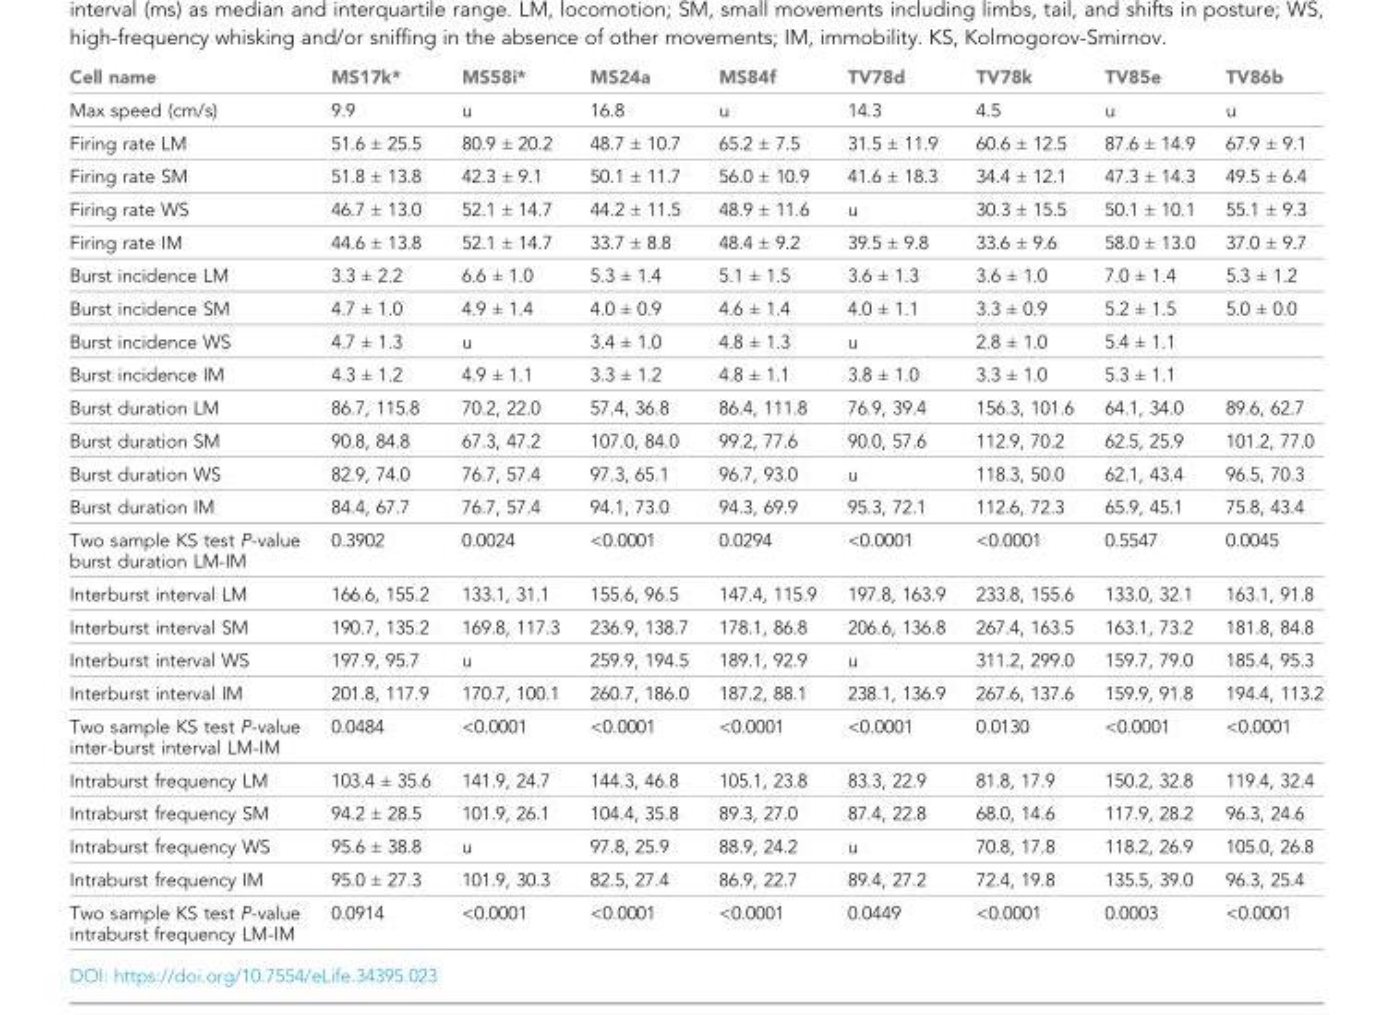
<table><thead><tr><td>Cell name</td><td>MS17k*</td><td>MS58i*</td><td>MS24a</td><td>MS84f</td><td>TV78d</td><td>TV78k</td><td>TV85e</td><td>TV86b</td></tr></thead><tbody><tr><td>Max speed (cm/s)</td><td>9.9</td><td>u</td><td>16.8</td><td>u</td><td>14.3</td><td>4.5</td><td>u</td><td>u</td></tr><tr><td>Firing rate LM</td><td>51.6 ± 25.5</td><td>80.9 ± 20.2</td><td>48.7 ± 10.7</td><td>65.2 ± 7.5</td><td>31.5 ± 11.9</td><td>60.6 ± 12.5</td><td>87.6 ± 14.9</td><td>67.9 ± 9.1</td></tr><tr><td>Firing rate SM</td><td>51.8 ± 13.8</td><td>42.3 ± 9.1</td><td>50.1 ± 11.7</td><td>56.0 ± 10.9</td><td>41.6 ± 18.3</td><td>34.4 ± 12.1</td><td>47.3 ± 14.3</td><td>49.5 ± 6.4</td></tr><tr><td>Firing rate WS</td><td>46.7 ± 13.0</td><td>52.1 ± 14.7</td><td>44.2 ± 11.5</td><td>48.9 ± 11.6</td><td>u</td><td>30.3 ± 15.5</td><td>50.1 ± 10.1</td><td>55.1 ± 9.3</td></tr><tr><td>Firing rate IM</td><td>44.6 ± 13.8</td><td>52.1 ± 14.7</td><td>33.7 ± 8.8</td><td>48.4 ± 9.2</td><td>39.5 ± 9.8</td><td>33.6 ± 9.6</td><td>58.0 ± 13.0</td><td>37.0 ± 9.7</td></tr><tr><td>Burst incidence LM</td><td>3.3 ± 2.2</td><td>6.6 ± 1.0</td><td>5.3 ± 1.4</td><td>5.1 ± 1.5</td><td>3.6 ± 1.3</td><td>3.6 ± 1.0</td><td>7.0 ± 1.4</td><td>5.3 ± 1.2</td></tr><tr><td>Burst incidence SM</td><td>4.7 ± 1.0</td><td>4.9 ± 1.4</td><td>4.0 ± 0.9</td><td>4.6 ± 1.4</td><td>4.0 ± 1.1</td><td>3.3 ± 0.9</td><td>5.2 ± 1.5</td><td>5.0 ± 0.0</td></tr><tr><td>Burst incidence WS</td><td>4.7 ± 1.3</td><td>u</td><td>3.4 ± 1.0</td><td>4.8 ± 1.3</td><td>u</td><td>2.8 ± 1.0</td><td>5.4 ± 1.1</td><td></td></tr><tr><td>Burst incidence IM</td><td>4.3 ± 1.2</td><td>4.9 ± 1.1</td><td>3.3 ± 1.2</td><td>4.8 ± 1.1</td><td>3.8 ± 1.0</td><td>3.3 ± 1.0</td><td>5.3 ± 1.1</td><td></td></tr><tr><td>Burst duration LM</td><td>86.7, 115.8</td><td>70.2, 22.0</td><td>57.4, 36.8</td><td>86.4, 111.8</td><td>76.9, 39.4</td><td>156.3, 101.6</td><td>64.1, 34.0</td><td>89.6, 62.7</td></tr><tr><td>Burst duration SM</td><td>90.8, 84.8</td><td>67.3, 47.2</td><td>107.0, 84.0</td><td>99.2, 77.6</td><td>90.0, 57.6</td><td>112.9, 70.2</td><td>62.5, 25.9</td><td>101.2, 77.0</td></tr><tr><td>Burst duration WS</td><td>82.9, 74.0</td><td>76.7, 57.4</td><td>97.3, 65.1</td><td>96.7, 93.0</td><td>u</td><td>118.3, 50.0</td><td>62.1, 43.4</td><td>96.5, 70.3</td></tr><tr><td>Burst duration IM</td><td>84.4, 67.7</td><td>76.7, 57.4</td><td>94.1, 73.0</td><td>94.3, 69.9</td><td>95.3, 72.1</td><td>112.6, 72.3</td><td>65.9, 45.1</td><td>75.8, 43.4</td></tr><tr><td>Two sample KS test P-value burst duration LM-IM</td><td>0.3902</td><td>0.0024</td><td>&lt;0.0001</td><td>0.0294</td><td>&lt;0.0001</td><td>&lt;0.0001</td><td>0.5547</td><td>0.0045</td></tr><tr><td>Interburst interval LM</td><td>166.6, 155.2</td><td>133.1, 31.1</td><td>155.6, 96.5</td><td>147.4, 115.9</td><td>197.8, 163.9</td><td>233.8, 155.6</td><td>133.0, 32.1</td><td>163.1, 91.8</td></tr><tr><td>Interburst interval SM</td><td>190.7, 135.2</td><td>169.8, 117.3</td><td>236.9, 138.7</td><td>178.1, 86.8</td><td>206.6, 136.8</td><td>267.4, 163.5</td><td>163.1, 73.2</td><td>181.8, 84.8</td></tr><tr><td>Interburst interval WS</td><td>197.9, 95.7</td><td>u</td><td>259.9, 194.5</td><td>189.1, 92.9</td><td>u</td><td>311.2, 299.0</td><td>159.7, 79.0</td><td>185.4, 95.3</td></tr><tr><td>Interburst interval IM</td><td>201.8, 117.9</td><td>170.7, 100.1</td><td>260.7, 186.0</td><td>187.2, 88.1</td><td>238.1, 136.9</td><td>267.6, 137.6</td><td>159.9, 91.8</td><td>194.4, 113.2</td></tr><tr><td>Two sample KS test P-value inter-burst interval LM-IM</td><td>0.0484</td><td>&lt;0.0001</td><td>&lt;0.0001</td><td>&lt;0.0001</td><td>&lt;0.0001</td><td>0.0130</td><td>&lt;0.0001</td><td>&lt;0.0001</td></tr><tr><td>Intraburst frequency LM</td><td>103.4 ± 35.6</td><td>141.9, 24.7</td><td>144.3, 46.8</td><td>105.1, 23.8</td><td>83.3, 22.9</td><td>81.8, 17.9</td><td>150.2, 32.8</td><td>119.4, 32.4</td></tr><tr><td>Intraburst frequency SM</td><td>94.2 ± 28.5</td><td>101.9, 26.1</td><td>104.4, 35.8</td><td>89.3, 27.0</td><td>87.4, 22.8</td><td>68.0, 14.6</td><td>117.9, 28.2</td><td>96.3, 24.6</td></tr><tr><td>Intraburst frequency WS</td><td>95.6 ± 38.8</td><td>u</td><td>97.8, 25.9</td><td>88.9, 24.2</td><td>u</td><td>70.8, 17.8</td><td>118.2, 26.9</td><td>105.0, 26.8</td></tr><tr><td>Intraburst frequency IM</td><td>95.0 ± 27.3</td><td>101.9, 30.3</td><td>82.5, 27.4</td><td>86.9, 22.7</td><td>89.4, 27.2</td><td>72.4, 19.8</td><td>135.5, 39.0</td><td>96.3, 25.4</td></tr><tr><td>Two sample KS test P-value intraburst frequency LM-IM</td><td>0.0914</td><td>&lt;0.0001</td><td>&lt;0.0001</td><td>&lt;0.0001</td><td>0.0449</td><td>&lt;0.0001</td><td>0.0003</td><td>&lt;0.0001</td></tr></tbody></table>